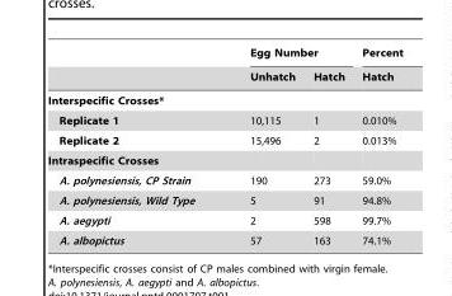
<table><thead><tr><td rowspan="2"></td><td colspan="2">Egg Number</td><td rowspan="2">Percent Hatch</td></tr><tr><td>Unhatch</td><td>Hatch</td></tr></thead><tbody><tr><td colspan="4">Interspecific Crosses*</td></tr><tr><td>Replicate 1</td><td>10,115</td><td>1</td><td>0.010%</td></tr><tr><td>Replicate 2</td><td>15,496</td><td>2</td><td>0.013%</td></tr><tr><td colspan="4">Intraspecific Crosses</td></tr><tr><td>A. polynesiensis, CP Strain</td><td>190</td><td>273</td><td>59.0%</td></tr><tr><td>A. polynesiensis, Wild Type</td><td>5</td><td>91</td><td>94.8%</td></tr><tr><td>A. aegypti</td><td>2</td><td>598</td><td>99.7%</td></tr><tr><td>A. albopictus</td><td>57</td><td>163</td><td>74.1%</td></tr></tbody></table>